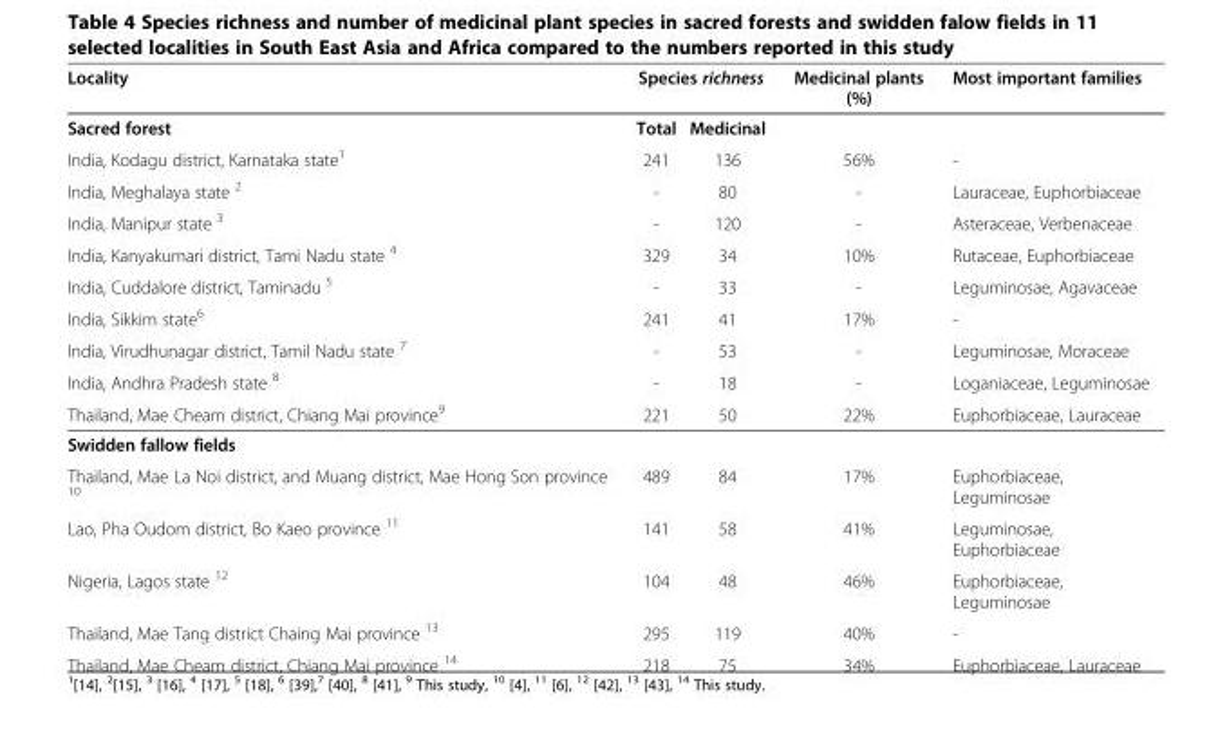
<table><thead><tr><td rowspan="2">Locality Sacred forest</td><td colspan="2">Species richness</td><td rowspan="2">Medicinal plants (%)</td><td rowspan="2">Most important families</td></tr><tr><td>Total</td><td>Medicinal</td></tr></thead><tbody><tr><td>India, Kodagu district, Karnataka state<sup>1</sup></td><td>241</td><td>136</td><td>56%</td><td>-</td></tr><tr><td>India, Meghalaya state <sup>2</sup></td><td>-</td><td>80</td><td>-</td><td>Lauraceae, Euphorbiaceae</td></tr><tr><td>India, Manipur state <sup>3</sup></td><td>-</td><td>120</td><td>-</td><td>Asteraceae, Verbenaceae</td></tr><tr><td>India, Kanyakumari district, Tami Nadu state <sup>4</sup></td><td>329</td><td>34</td><td>10%</td><td>Rutaceae, Euphorbiaceae</td></tr><tr><td>India, Cuddalore district, Taminadu <sup>5</sup></td><td>-</td><td>33</td><td>-</td><td>Leguminosae, Agavaceae</td></tr><tr><td>India, Sikkim state<sup>6</sup></td><td>241</td><td>41</td><td>17%</td><td>-</td></tr><tr><td>India, Virudhunagar district, Tamil Nadu state <sup>7</sup></td><td>-</td><td>53</td><td>-</td><td>Leguminosae, Moraceae</td></tr><tr><td>India, Andhra Pradesh state <sup>8</sup></td><td>-</td><td>18</td><td>-</td><td>Loganiaceae, Leguminosae</td></tr><tr><td>Thailand, Mae Cheam district, Chiang Mai province<sup>9</sup></td><td>221</td><td>50</td><td>22%</td><td>Euphorbiaceae, Lauraceae</td></tr><tr><td colspan="5">Swidden fallow fields</td></tr><tr><td>Thailand, Mae La Noi district, and Muang district, Mae Hong Son province <sup>10</sup></td><td>489</td><td>84</td><td>17%</td><td>Euphorbiaceae, Leguminosae</td></tr><tr><td>Lao, Pha Oudom district, Bo Kaeo province <sup>11</sup></td><td>141</td><td>58</td><td>41%</td><td>Leguminosae, Euphorbiaceae</td></tr><tr><td>Nigeria, Lagos state <sup>12</sup></td><td>104</td><td>48</td><td>46%</td><td>Euphorbiaceae, Leguminosae</td></tr><tr><td>Thailand, Mae Tang district Chaing Mai province <sup>13</sup></td><td>295</td><td>119</td><td>40%</td><td>-</td></tr><tr><td>Thailand, Mae Cheam district, Chiang Mai province <sup>14</sup></td><td>218</td><td>75</td><td>34%</td><td>Euphorbiaceae, Lauraceae</td></tr></tbody></table>